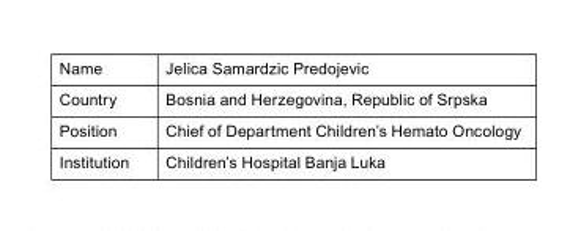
<table><tbody><tr><td>Name</td><td>Jelica Samardzic Predojevic</td></tr><tr><td>Country</td><td>Bosnia and Herzegovina, Republic of Srpska</td></tr><tr><td>Position</td><td>Chief of Department Children’s Hemato Oncology</td></tr><tr><td>Institution</td><td>Children’s Hospital Banja Luka</td></tr></tbody></table>